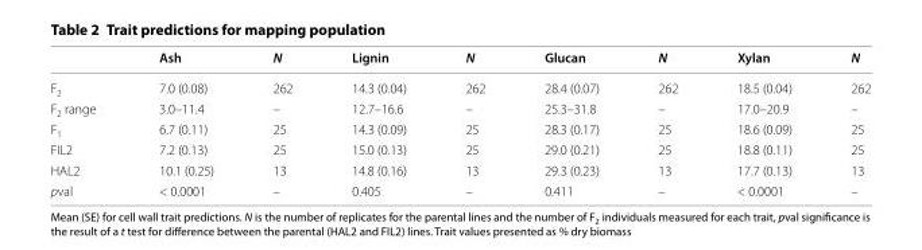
<table><thead><tr><td></td><td>Ash</td><td>N</td><td>Lignin</td><td>N</td><td>Glucan</td><td>N</td><td>Xylan</td><td>N</td></tr></thead><tbody><tr><td>F<sub>2</sub></td><td>7.0 (0.08)</td><td>262</td><td>14.3 (0.04)</td><td>262</td><td>28.4 (0.07)</td><td>262</td><td>18.5 (0.04)</td><td>262</td></tr><tr><td>F<sub>2</sub> range</td><td>3.0–11.4</td><td>–</td><td>12.7–16.6</td><td>–</td><td>25.3–31.8</td><td>–</td><td>17.0–20.9</td><td>–</td></tr><tr><td>F<sub>1</sub></td><td>6.7 (0.11)</td><td>25</td><td>14.3 (0.09)</td><td>25</td><td>28.3 (0.17)</td><td>25</td><td>18.6 (0.09)</td><td>25</td></tr><tr><td>FIL2</td><td>7.2 (0.13)</td><td>25</td><td>15.0 (0.13)</td><td>25</td><td>29.0 (0.21)</td><td>25</td><td>18.8 (0.11)</td><td>25</td></tr><tr><td>HAL2</td><td>10.1 (0.25)</td><td>13</td><td>14.8 (0.16)</td><td>13</td><td>29.3 (0.23)</td><td>13</td><td>17.7 (0.13)</td><td>13</td></tr><tr><td>pval</td><td>&lt; 0.0001</td><td>–</td><td>0.405</td><td>–</td><td>0.411</td><td>–</td><td>&lt; 0.0001</td><td>–</td></tr></tbody></table>